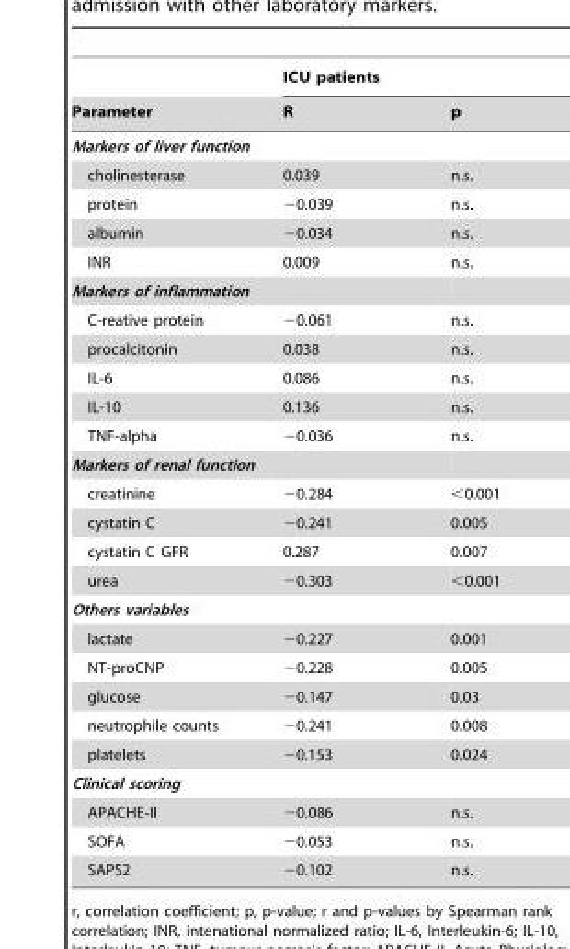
<table><thead><tr><td rowspan="2">Parameter</td><td colspan="2">ICU patients</td></tr><tr><td>R</td><td>p</td></tr></thead><tbody><tr><td colspan="3">Markers of liver function</td></tr><tr><td>cholinesterase</td><td>0.039</td><td>n.s.</td></tr><tr><td>protein</td><td>−0.039</td><td>n.s.</td></tr><tr><td>albumin</td><td>−0.034</td><td>n.s.</td></tr><tr><td>INR</td><td>0.009</td><td>n.s.</td></tr><tr><td colspan="3">Markers of inflammation</td></tr><tr><td>C-reative protein</td><td>−0.061</td><td>n.s.</td></tr><tr><td>procalcitonin</td><td>0.038</td><td>n.s.</td></tr><tr><td>IL-6</td><td>0.086</td><td>n.s.</td></tr><tr><td>IL-10</td><td>0.136</td><td>n.s.</td></tr><tr><td>TNF-alpha</td><td>−0.036</td><td>n.s.</td></tr><tr><td colspan="3">Markers of renal function</td></tr><tr><td>creatinine</td><td>−0.284</td><td>&lt;0.001</td></tr><tr><td>cystatin C</td><td>−0.241</td><td>0.005</td></tr><tr><td>cystatin C GFR</td><td>0.287</td><td>0.007</td></tr><tr><td>urea</td><td>−0.303</td><td>&lt;0.001</td></tr><tr><td colspan="3">Others variables</td></tr><tr><td>lactate</td><td>−0.227</td><td>0.001</td></tr><tr><td>NT-proCNP</td><td>−0.228</td><td>0.005</td></tr><tr><td>glucose</td><td>−0.147</td><td>0.03</td></tr><tr><td>neutrophile counts</td><td>−0.241</td><td>0.008</td></tr><tr><td>platelets</td><td>−0.153</td><td>0.024</td></tr><tr><td colspan="3">Clinical scoring</td></tr><tr><td>APACHE-II</td><td>−0.086</td><td>n.s.</td></tr><tr><td>SOFA</td><td>−0.053</td><td>n.s.</td></tr><tr><td>SAPS2</td><td>−0.102</td><td>n.s.</td></tr></tbody></table>